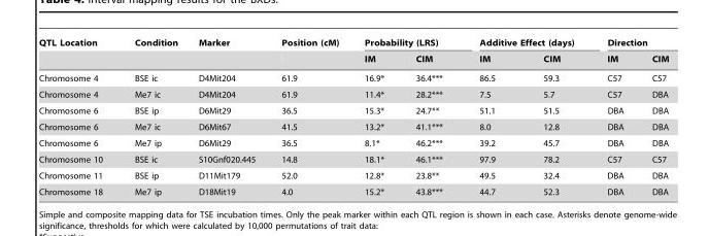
<table><thead><tr><td rowspan="2">QTL Location</td><td rowspan="2">Condition</td><td rowspan="2">Marker</td><td rowspan="2">Position (cM)</td><td colspan="2">Probability (LRS)</td><td colspan="2">Additive Effect (days)</td><td colspan="2">Direction</td></tr><tr><td>IM</td><td>CIM</td><td>IM</td><td>CIM</td><td>IM</td><td>CIM</td></tr></thead><tbody><tr><td>Chromosome 4</td><td>BSE ic</td><td>D4Mit204</td><td>61.9</td><td>16.9*</td><td>36.4***</td><td>86.5</td><td>59.3</td><td>C57</td><td>C57</td></tr><tr><td>Chromosome 4</td><td>Me7 ic</td><td>D4Mit204</td><td>61.9</td><td>11.4*</td><td>28.2***</td><td>7.5</td><td>5.7</td><td>C57</td><td>DBA</td></tr><tr><td>Chromosome 6</td><td>BSE ip</td><td>D6Mit29</td><td>36.5</td><td>15.3*</td><td>24.7**</td><td>51.1</td><td>51.5</td><td>DBA</td><td>DBA</td></tr><tr><td>Chromosome 6</td><td>Me7 ic</td><td>D6Mit67</td><td>41.5</td><td>13.2*</td><td>41.1***</td><td>8.0</td><td>12.8</td><td>DBA</td><td>DBA</td></tr><tr><td>Chromosome 6</td><td>Me7 ip</td><td>D6Mit29</td><td>36.5</td><td>8.1*</td><td>46.2***</td><td>39.2</td><td>45.7</td><td>DBA</td><td>DBA</td></tr><tr><td>Chromosome 10</td><td>BSE ic</td><td>S10Gnf020.445</td><td>14.8</td><td>18.1*</td><td>46.1***</td><td>97.9</td><td>78.2</td><td>C57</td><td>C57</td></tr><tr><td>Chromosome 11</td><td>BSE ip</td><td>D11Mit179</td><td>52.0</td><td>12.8*</td><td>23.8**</td><td>49.5</td><td>32.4</td><td>DBA</td><td>DBA</td></tr><tr><td>Chromosome 18</td><td>Me7 ip</td><td>D18Mit19</td><td>4.0</td><td>15.2*</td><td>43.8***</td><td>44.7</td><td>52.3</td><td>DBA</td><td>DBA</td></tr></tbody></table>